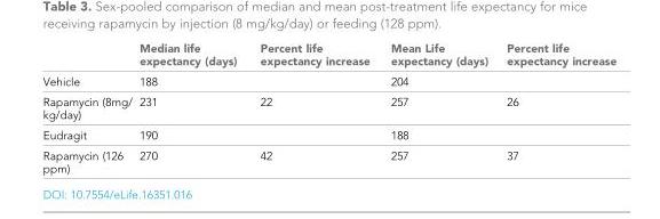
<table><thead><tr><td></td><td>Median life expectancy (days)</td><td>Percent life expectancy increase</td><td>Mean Life expectancy (days)</td><td>Percent life expectancy increase</td></tr></thead><tbody><tr><td>Vehicle</td><td>188</td><td></td><td>204</td><td></td></tr><tr><td>Rapamycin (8mg/ kg/day)</td><td>231</td><td>22</td><td>257</td><td>26</td></tr><tr><td>Eudragit</td><td>190</td><td></td><td>188</td><td></td></tr><tr><td>Rapamycin (126 ppm)</td><td>270</td><td>42</td><td>257</td><td>37</td></tr></tbody></table>